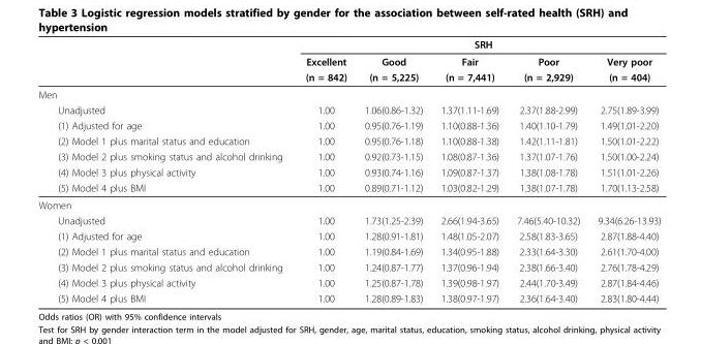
<table><thead><tr><td rowspan="3"></td><td colspan="5">SRH</td></tr><tr><td rowspan="2">Excellent (n = 842)</td><td rowspan="2">Good (n = 5,225)</td><td rowspan="2">Fair (n = 7,441)</td><td rowspan="2">Poor (n = 2,929)</td><td rowspan="2">Very poor (n = 404)</td></tr><tr></tr></thead><tbody><tr><td colspan="6">Men</td></tr><tr><td>Unadjusted</td><td>1.00</td><td>1.06(0.86-1.32)</td><td>1.37(1.11-1.69)</td><td>2.37(1.88-2.99)</td><td>2.75(1.89-3.99)</td></tr><tr><td>(1) Adjusted for age</td><td>1.00</td><td>0.95(0.76-1.19)</td><td>1.10(0.88-1.36)</td><td>1.40(1.10-1.79)</td><td>1.49(1.01-2.20)</td></tr><tr><td>(2) Model 1 plus marital status and education</td><td>1.00</td><td>0.95(0.76-1.18)</td><td>1.10(0.88-1.38)</td><td>1.42(1.11-1.81)</td><td>1.50(1.01-2.22)</td></tr><tr><td>(3) Model 2 plus smoking status and alcohol drinking</td><td>1.00</td><td>0.92(0.73-1.15)</td><td>1.08(0.87-1.36)</td><td>1.37(1.07-1.76)</td><td>1.50(1.00-2.24)</td></tr><tr><td>(4) Model 3 plus physical activity</td><td>1.00</td><td>0.93(0.74-1.16)</td><td>1.09(0.87-1.37)</td><td>1.38(1.08-1.78)</td><td>1.51(1.01-2.26)</td></tr><tr><td>(5) Model 4 plus BMI</td><td>1.00</td><td>0.89(0.71-1.12)</td><td>1.03(0.82-1.29)</td><td>1.38(1.07-1.78)</td><td>1.70(1.13-2.58)</td></tr><tr><td colspan="6">Women</td></tr><tr><td>Unadjusted</td><td>1.00</td><td>1.73(1.25-2.39)</td><td>2.66(1.94-3.65)</td><td>7.46(5.40-10.32)</td><td>9.34(6.26-13.93)</td></tr><tr><td>(1) Adjusted for age</td><td>1.00</td><td>1.28(0.91-1.81)</td><td>1.48(1.05-2.07)</td><td>2.58(1.83-3.65)</td><td>2.87(1.88-4.40)</td></tr><tr><td>(2) Model 1 plus marital status and education</td><td>1.00</td><td>1.19(0.84-1.69)</td><td>1.34(0.95-1.88)</td><td>2.33(1.64-3.30)</td><td>2.61(1.70-4.00)</td></tr><tr><td>(3) Model 2 plus smoking status and alcohol drinking</td><td>1.00</td><td>1.24(0.87-1.77)</td><td>1.37(0.96-1.94)</td><td>2.38(1.66-3.40)</td><td>2.76(1.78-4.29)</td></tr><tr><td>(4) Model 3 plus physical activity</td><td>1.00</td><td>1.25(0.87-1.78)</td><td>1.39(0.98-1.97)</td><td>2.44(1.70-3.49)</td><td>2.87(1.84-4.46)</td></tr><tr><td>(5) Model 4 plus BMI</td><td>1.00</td><td>1.28(0.89-1.83)</td><td>1.38(0.97-1.97)</td><td>2.36(1.64-3.40)</td><td>2.83(1.80-4.44)</td></tr></tbody></table>